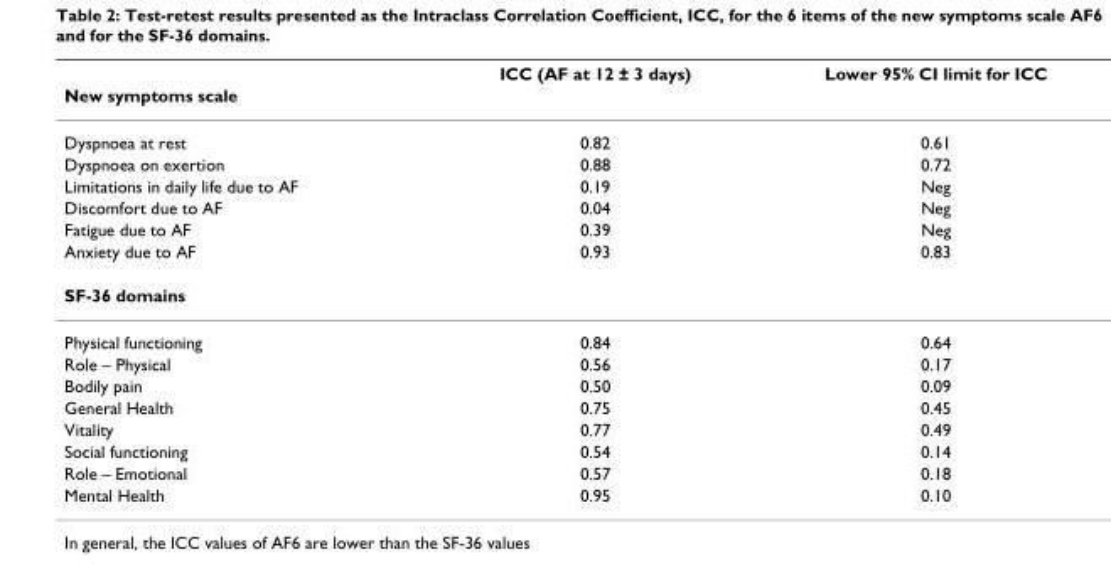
<table><thead><tr><td rowspan="2">New symptoms scale</td><td rowspan="2">ICC (AF at 12 ± 3 days)</td><td rowspan="2">Lower 95% CI limit for ICC</td></tr><tr></tr></thead><tbody><tr><td>Dyspnoea at rest</td><td>0.82</td><td>0.61</td></tr><tr><td>Dyspnoea on exertion</td><td>0.88</td><td>0.72</td></tr><tr><td>Limitations in daily life due to AF</td><td>0.19</td><td>Neg</td></tr><tr><td>Discomfort due to AF</td><td>0.04</td><td>Neg</td></tr><tr><td>Fatigue due to AF</td><td>0.39</td><td>Neg</td></tr><tr><td>Anxiety due to AF</td><td>0.93</td><td>0.83</td></tr><tr><td colspan="3">SF-36 domains</td></tr><tr><td>Physical functioning</td><td>0.84</td><td>0.64</td></tr><tr><td>Role – Physical</td><td>0.56</td><td>0.17</td></tr><tr><td>Bodily pain</td><td>0.50</td><td>0.09</td></tr><tr><td>General Health</td><td>0.75</td><td>0.45</td></tr><tr><td>Vitality</td><td>0.77</td><td>0.49</td></tr><tr><td>Social functioning</td><td>0.54</td><td>0.14</td></tr><tr><td>Role – Emotional</td><td>0.57</td><td>0.18</td></tr><tr><td>Mental Health</td><td>0.95</td><td>0.10</td></tr></tbody></table>